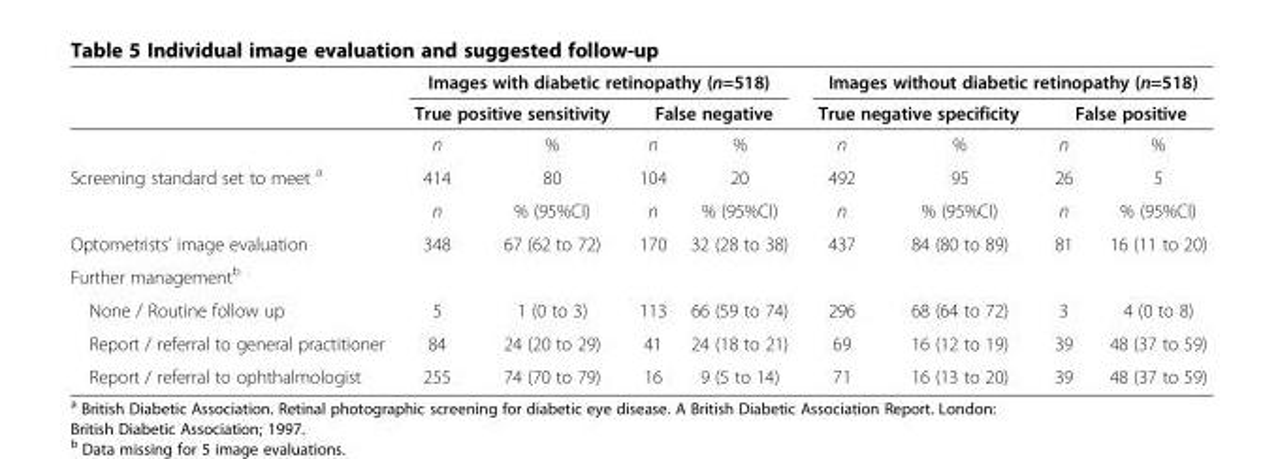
<table><thead><tr><td rowspan="3"></td><td colspan="4">Images with diabetic retinopathy (n=518)</td><td colspan="4">Images without diabetic retinopathy (n=518)</td></tr><tr><td colspan="2">True positive sensitivity</td><td colspan="2">False negative</td><td colspan="2">True negative specificity</td><td colspan="2">False positive</td></tr><tr><td>n</td><td>%</td><td>n</td><td>%</td><td>n</td><td>%</td><td>n</td><td>%</td></tr></thead><tbody><tr><td rowspan="2">Screening standard set to meet <sup>a</sup></td><td>414</td><td>80</td><td>104</td><td>20</td><td>492</td><td>95</td><td>26</td><td>5</td></tr><tr><td>n</td><td>% (95%CI)</td><td>n</td><td>% (95%CI)</td><td>n</td><td>% (95%CI)</td><td>n</td><td>% (95%CI)</td></tr><tr><td>Optometrists’ image evaluation</td><td>348</td><td>67 (62 to 72)</td><td>170</td><td>32 (28 to 38)</td><td>437</td><td>84 (80 to 89)</td><td>81</td><td>16 (11 to 20)</td></tr><tr><td colspan="9">Further management<sup>b</sup></td></tr><tr><td>None / Routine follow up</td><td>5</td><td>1 (0 to 3)</td><td>113</td><td>66 (59 to 74)</td><td>296</td><td>68 (64 to 72)</td><td>3</td><td>4 (0 to 8)</td></tr><tr><td>Report / referral to general practitioner</td><td>84</td><td>24 (20 to 29)</td><td>41</td><td>24 (18 to 21)</td><td>69</td><td>16 (12 to 19)</td><td>39</td><td>48 (37 to 59)</td></tr><tr><td>Report / referral to ophthalmologist</td><td>255</td><td>74 (70 to 79)</td><td>16</td><td>9 (5 to 14)</td><td>71</td><td>16 (13 to 20)</td><td>39</td><td>48 (37 to 59)</td></tr></tbody></table>